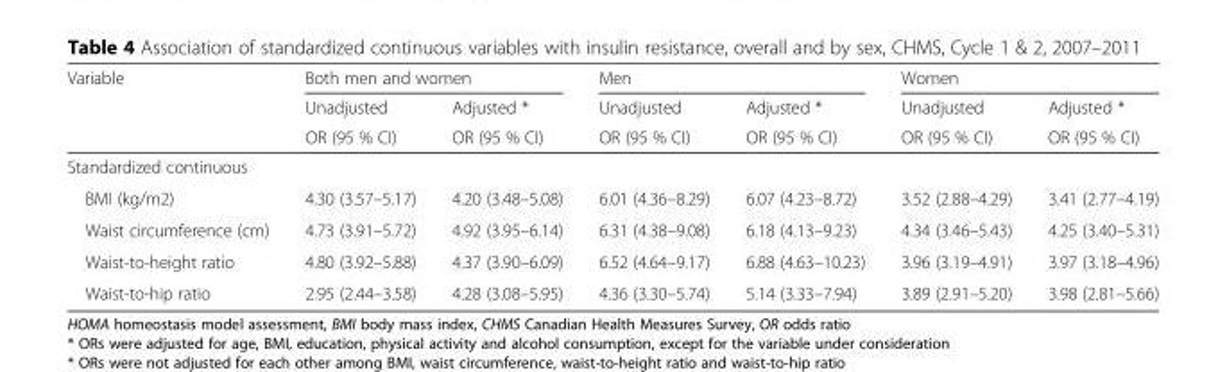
<table><thead><tr><td rowspan="3">Variable</td><td colspan="2">Both men and women</td><td colspan="2">Men</td><td colspan="2">Women</td></tr><tr><td rowspan="2">Unadjusted OR (95 % CI)</td><td rowspan="2">Adjusted * OR (95 % CI)</td><td rowspan="2">Unadjusted OR (95 % CI)</td><td rowspan="2">Adjusted * OR (95 % CI)</td><td rowspan="2">Unadjusted OR (95 % CI)</td><td rowspan="2">Adjusted * OR (95 % CI)</td></tr><tr></tr></thead><tbody><tr><td colspan="7">Standardized continuous</td></tr><tr><td>BMI (kg/m2)</td><td>4.30 (3.57–5.17)</td><td>4.20 (3.48–5.08)</td><td>6.01 (4.36–8.29)</td><td>6.07 (4.23–8.72)</td><td>3.52 (2.88–4.29)</td><td>3.41 (2.77–4.19)</td></tr><tr><td>Waist circumference (cm)</td><td>4.73 (3.91–5.72)</td><td>4.92 (3.95–6.14)</td><td>6.31 (4.38–9.08)</td><td>6.18 (4.13–9.23)</td><td>4.34 (3.46–5.43)</td><td>4.25 (3.40–5.31)</td></tr><tr><td>Waist-to-height ratio</td><td>4.80 (3.92–5.88)</td><td>4.37 (3.90–6.09)</td><td>6.52 (4.64–9.17)</td><td>6.88 (4.63–10.23)</td><td>3.96 (3.19–4.91)</td><td>3.97 (3.18–4.96)</td></tr><tr><td>Waist-to-hip ratio</td><td>2.95 (2.44–3.58)</td><td>4.28 (3.08–5.95)</td><td>4.36 (3.30–5.74)</td><td>5.14 (3.33–7.94)</td><td>3.89 (2.91–5.20)</td><td>3.98 (2.81–5.66)</td></tr></tbody></table>